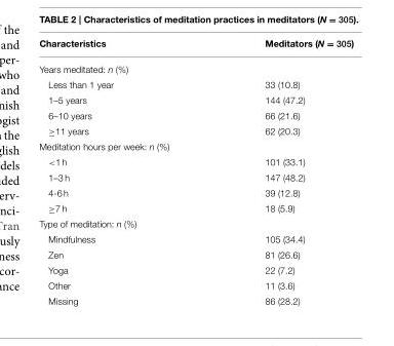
<table><thead><tr><td>Characteristics</td><td>Meditators (N = 305)</td></tr></thead><tbody><tr><td colspan="2">Years meditated: n (%)</td></tr><tr><td>Less than 1 year</td><td>33 (10.8)</td></tr><tr><td>1–5 years</td><td>144 (47.2)</td></tr><tr><td>6–10 years</td><td>66 (21.6)</td></tr><tr><td>≥11 years</td><td>62 (20.3)</td></tr><tr><td colspan="2">Meditation hours per week: n (%)</td></tr><tr><td>&lt;1 h</td><td>101 (33.1)</td></tr><tr><td>1–3 h</td><td>147 (48.2)</td></tr><tr><td>4-6 h</td><td>39 (12.8)</td></tr><tr><td>≥7 h</td><td>18 (5.9)</td></tr><tr><td colspan="2">Type of meditation: n (%)</td></tr><tr><td>Mindfulness</td><td>105 (34.4)</td></tr><tr><td>Zen</td><td>81 (26.6)</td></tr><tr><td>Yoga</td><td>22 (7.2)</td></tr><tr><td>Other</td><td>11 (3.6)</td></tr><tr><td>Missing</td><td>86 (28.2)</td></tr></tbody></table>